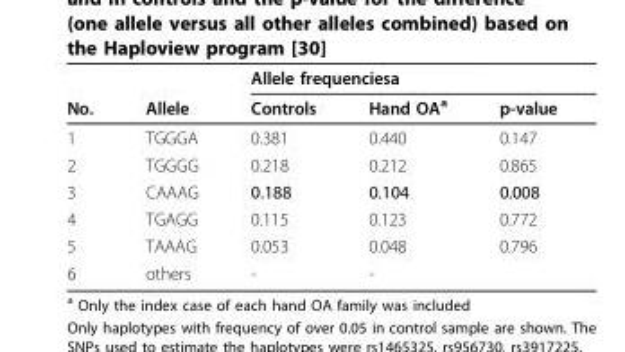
<table><thead><tr><td rowspan="2">No.</td><td rowspan="2">Allele</td><td colspan="3">Allele frequenciesa</td></tr><tr><td>Controls</td><td>Hand OA<sup>a</sup></td><td>p-value</td></tr></thead><tbody><tr><td>1</td><td>TGGGA</td><td>0.381</td><td>0.440</td><td>0.147</td></tr><tr><td>2</td><td>TGGGG</td><td>0.218</td><td>0.212</td><td>0.865</td></tr><tr><td>3</td><td>CAAAG</td><td>0.188</td><td>0.104</td><td>0.008</td></tr><tr><td>4</td><td>TGAGG</td><td>0.115</td><td>0.123</td><td>0.772</td></tr><tr><td>5</td><td>TAAAG</td><td>0.053</td><td>0.048</td><td>0.796</td></tr><tr><td>6</td><td>others</td><td>-</td><td>-</td><td></td></tr></tbody></table>